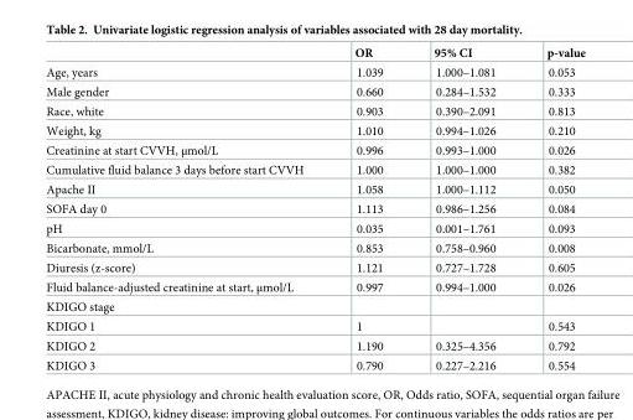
<table><thead><tr><td></td><td>OR</td><td>95% CI</td><td>p-value</td></tr></thead><tbody><tr><td>Age, years</td><td>1.039</td><td>1.000–1.081</td><td>0.053</td></tr><tr><td>Male gender</td><td>0.660</td><td>0.284–1.532</td><td>0.333</td></tr><tr><td>Race, white</td><td>0.903</td><td>0.390–2.091</td><td>0.813</td></tr><tr><td>Weight, kg</td><td>1.010</td><td>0.994–1.026</td><td>0.210</td></tr><tr><td>Creatinine at start CVVH, μmol/L</td><td>0.996</td><td>0.993–1.000</td><td>0.026</td></tr><tr><td>Cumulative fluid balance 3 days before start CVVH</td><td>1.000</td><td>1.000–1.000</td><td>0.382</td></tr><tr><td>Apache II</td><td>1.058</td><td>1.000–1.112</td><td>0.050</td></tr><tr><td>SOFA day 0</td><td>1.113</td><td>0.986–1.256</td><td>0.084</td></tr><tr><td>pH</td><td>0.035</td><td>0.001–1.761</td><td>0.093</td></tr><tr><td>Bicarbonate, mmol/L</td><td>0.853</td><td>0.758–0.960</td><td>0.008</td></tr><tr><td>Diuresis (z-score)</td><td>1.121</td><td>0.727–1.728</td><td>0.605</td></tr><tr><td>Fluid balance-adjusted creatinine at start, μmol/L</td><td>0.997</td><td>0.994–1.000</td><td>0.026</td></tr><tr><td colspan="4">KDIGO stage</td></tr><tr><td>KDIGO 1</td><td>1</td><td></td><td>0.543</td></tr><tr><td>KDIGO 2</td><td>1.190</td><td>0.325–4.356</td><td>0.792</td></tr><tr><td>KDIGO 3</td><td>0.790</td><td>0.227–2.216</td><td>0.554</td></tr></tbody></table>